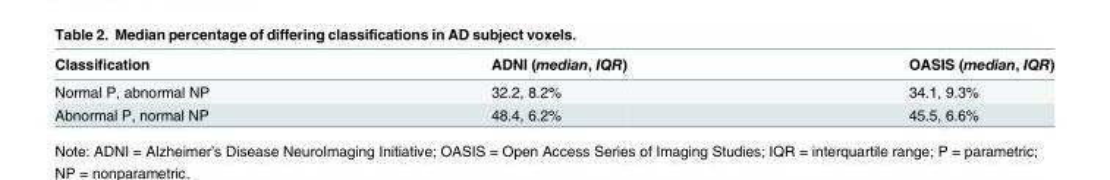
<table><thead><tr><td>Classification</td><td>ADNI (median, IQR)</td><td>OASIS (median, IQR)</td></tr></thead><tbody><tr><td>Normal P, abnormal NP</td><td>32.2, 8.2%</td><td>34.1, 9.3%</td></tr><tr><td>Abnormal P, normal NP</td><td>48.4, 6.2%</td><td>45.5, 6.6%</td></tr></tbody></table>